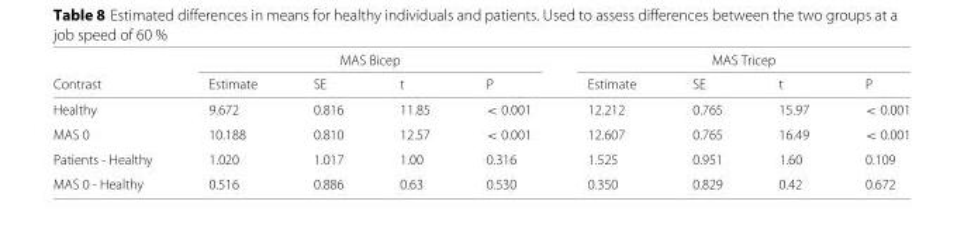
<table><thead><tr><td rowspan="2">Contrast</td><td colspan="4">MAS Bicep</td><td colspan="4">MAS Tricep</td></tr><tr><td>Estimate</td><td>SE</td><td>t</td><td>P</td><td>Estimate</td><td>SE</td><td>t</td><td>P</td></tr></thead><tbody><tr><td>Healthy</td><td>9.672</td><td>0.816</td><td>11.85</td><td>&lt; 0.001</td><td>12.212</td><td>0.765</td><td>15.97</td><td>&lt; 0.001</td></tr><tr><td>MAS 0</td><td>10.188</td><td>0.810</td><td>12.57</td><td>&lt; 0.001</td><td>12.607</td><td>0.765</td><td>16.49</td><td>&lt; 0.001</td></tr><tr><td>Patients - Healthy</td><td>1.020</td><td>1.017</td><td>1.00</td><td>0.316</td><td>1.525</td><td>0.951</td><td>1.60</td><td>0.109</td></tr><tr><td>MAS 0 - Healthy</td><td>0.516</td><td>0.886</td><td>0.63</td><td>0.530</td><td>0.350</td><td>0.829</td><td>0.42</td><td>0.672</td></tr></tbody></table>